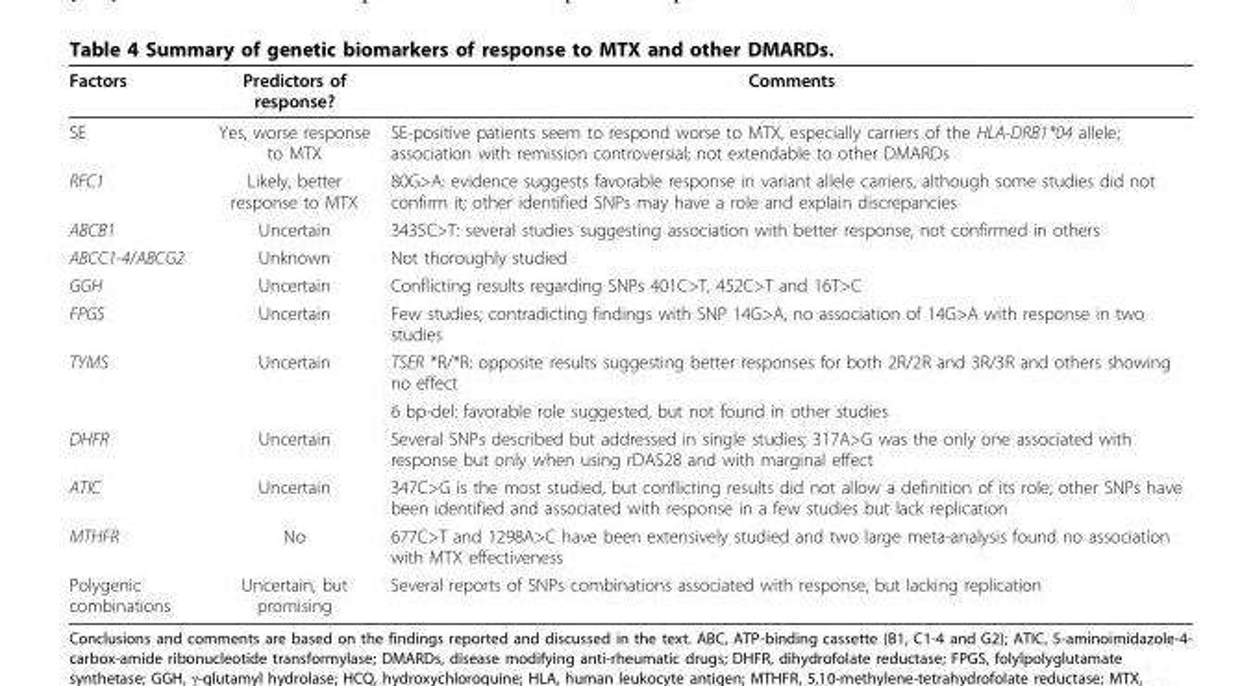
<table><thead><tr><td>Factors</td><td>Predictors of response?</td><td>Comments</td></tr></thead><tbody><tr><td>SE</td><td>Yes, worse response to MTX</td><td>SE-positive patients seem to respond worse to MTX, especially carriers of the HLA-DRB1*04 allele; association with remission controversial; not extendable to other DMARDs</td></tr><tr><td>RFC1</td><td>Likely, better response to MTX</td><td>80G&gt;A: evidence suggests favorable response in variant allele carriers, although some studies did not confirm it; other identified SNPs may have a role and explain discrepancies</td></tr><tr><td>ABCB1</td><td>Uncertain</td><td>3435C&gt;T: several studies suggesting association with better response, not confirmed in others</td></tr><tr><td>ABCC1-4/ABCG2</td><td>Unknown</td><td>Not thoroughly studied</td></tr><tr><td>GGH</td><td>Uncertain</td><td>Conflicting results regarding SNPs 401C&gt;T, 452C&gt;T and 16T&gt;C</td></tr><tr><td>FPGS</td><td>Uncertain</td><td>Few studies; contradicting findings with SNP 14G&gt;A, no association of 14G&gt;A with response in two studies</td></tr><tr><td rowspan="2">TYMS</td><td>Uncertain</td><td>TSER *R/*R: opposite results suggesting better responses for both 2R/2R and 3R/3R and others showing no effect</td></tr><tr><td></td><td>6 bp-del: favorable role suggested, but not found in other studies</td></tr><tr><td>DHFR</td><td>Uncertain</td><td>Several SNPs described but addressed in single studies; 317A&gt;G was the only one associated with response but only when using rDAS28 and with marginal effect</td></tr><tr><td>ATIC</td><td>Uncertain</td><td>347C&gt;G is the most studied, but conflicting results did not allow a definition of its role; other SNPs have been identified and associated with response in a few studies but lack replication</td></tr><tr><td>MTHFR</td><td>No</td><td>677C&gt;T and 1298A&gt;C have been extensively studied and two large meta-analysis found no association with MTX effectiveness</td></tr><tr><td>Polygenic combinations</td><td>Uncertain, but promising</td><td>Several reports of SNPs combinations associated with response, but lacking replication</td></tr></tbody></table>